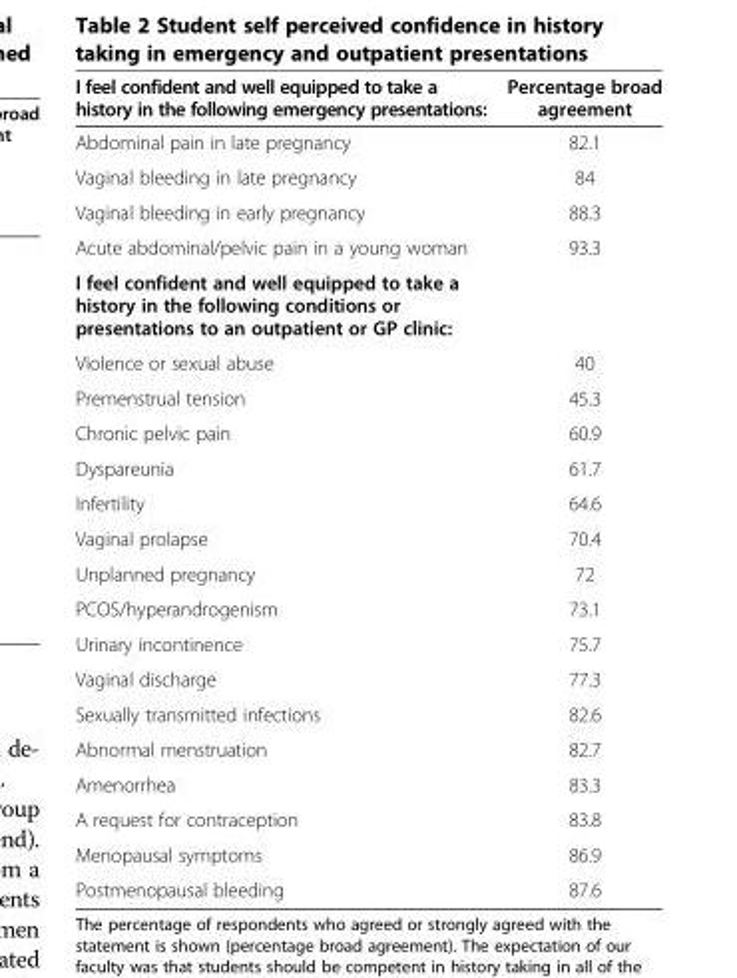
<table><thead><tr><td>I feel confident and well equipped to take a history in the following emergency presentations:</td><td>Percentage broad agreement</td></tr></thead><tbody><tr><td>Abdominal pain in late pregnancy</td><td>82.1</td></tr><tr><td>Vaginal bleeding in late pregnancy</td><td>84</td></tr><tr><td>Vaginal bleeding in early pregnancy</td><td>88.3</td></tr><tr><td>Acute abdominal/pelvic pain in a young woman</td><td>93.3</td></tr><tr><td colspan="2">I feel confident and well equipped to take a history in the following conditions or presentations to an outpatient or GP clinic:</td></tr><tr><td>Violence or sexual abuse</td><td>40</td></tr><tr><td>Premenstrual tension</td><td>45.3</td></tr><tr><td>Chronic pelvic pain</td><td>60.9</td></tr><tr><td>Dyspareunia</td><td>61.7</td></tr><tr><td>Infertility</td><td>64.6</td></tr><tr><td>Vaginal prolapse</td><td>70.4</td></tr><tr><td>Unplanned pregnancy</td><td>72</td></tr><tr><td>PCOS/hyperandrogenism</td><td>73.1</td></tr><tr><td>Urinary incontinence</td><td>75.7</td></tr><tr><td>Vaginal discharge</td><td>77.3</td></tr><tr><td>Sexually transmitted infections</td><td>82.6</td></tr><tr><td>Abnormal menstruation</td><td>82.7</td></tr><tr><td>Amenorrhea</td><td>83.3</td></tr><tr><td>A request for contraception</td><td>83.8</td></tr><tr><td>Menopausal symptoms</td><td>86.9</td></tr><tr><td>Postmenopausal bleeding</td><td>87.6</td></tr></tbody></table>